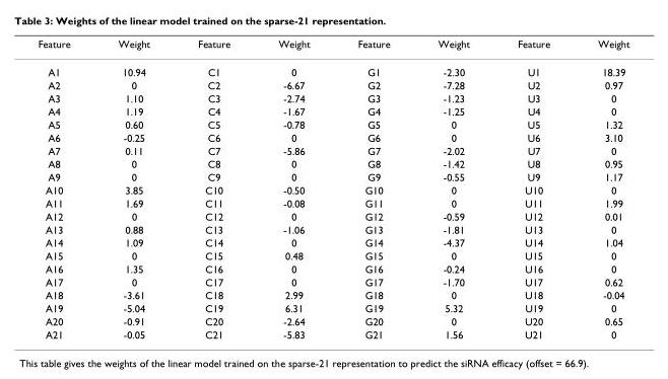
<table><thead><tr><td>Feature</td><td>Weight</td><td>Feature</td><td>Weight</td><td>Feature</td><td>Weight</td><td>Feature</td><td>Weight</td></tr></thead><tbody><tr><td>A1</td><td>10.94</td><td>C1</td><td>0</td><td>G1</td><td>-2.30</td><td>U1</td><td>18.39</td></tr><tr><td>A2</td><td>0</td><td>C2</td><td>-6.67</td><td>G2</td><td>-7.28</td><td>U2</td><td>0.97</td></tr><tr><td>A3</td><td>1.10</td><td>C3</td><td>-2.74</td><td>G3</td><td>-1.23</td><td>U3</td><td>0</td></tr><tr><td>A4</td><td>1.19</td><td>C4</td><td>-1.67</td><td>G4</td><td>-1.25</td><td>U4</td><td>0</td></tr><tr><td>A5</td><td>0.60</td><td>C5</td><td>-0.78</td><td>G5</td><td>0</td><td>U5</td><td>1.32</td></tr><tr><td>A6</td><td>-0.25</td><td>C6</td><td>0</td><td>G6</td><td>0</td><td>U6</td><td>3.10</td></tr><tr><td>A7</td><td>0.11</td><td>C7</td><td>-5.86</td><td>G7</td><td>-2.02</td><td>U7</td><td>0</td></tr><tr><td>A8</td><td>0</td><td>C8</td><td>0</td><td>G8</td><td>-1.42</td><td>U8</td><td>0.95</td></tr><tr><td>A9</td><td>0</td><td>C9</td><td>0</td><td>G9</td><td>-0.55</td><td>U9</td><td>1.17</td></tr><tr><td>A10</td><td>3.85</td><td>C10</td><td>-0.50</td><td>G10</td><td>0</td><td>U10</td><td>0</td></tr><tr><td>A11</td><td>1.69</td><td>C11</td><td>-0.08</td><td>G11</td><td>0</td><td>U11</td><td>1.99</td></tr><tr><td>A12</td><td>0</td><td>C12</td><td>0</td><td>G12</td><td>-0.59</td><td>U12</td><td>0.01</td></tr><tr><td>A13</td><td>0.88</td><td>C13</td><td>-1.06</td><td>G13</td><td>-1.81</td><td>U13</td><td>0</td></tr><tr><td>A14</td><td>1.09</td><td>C14</td><td>0</td><td>G14</td><td>-4.37</td><td>U14</td><td>1.04</td></tr><tr><td>A15</td><td>0</td><td>C15</td><td>0.48</td><td>G15</td><td>0</td><td>U15</td><td>0</td></tr><tr><td>A16</td><td>1.35</td><td>C16</td><td>0</td><td>G16</td><td>-0.24</td><td>U16</td><td>0</td></tr><tr><td>A17</td><td>0</td><td>C17</td><td>0</td><td>G17</td><td>-1.70</td><td>U17</td><td>0.62</td></tr><tr><td>A18</td><td>-3.61</td><td>C18</td><td>2.99</td><td>G18</td><td>0</td><td>U18</td><td>-0.04</td></tr><tr><td>A19</td><td>-5.04</td><td>C19</td><td>6.31</td><td>G19</td><td>5.32</td><td>U19</td><td>0</td></tr><tr><td>A20</td><td>-0.91</td><td>C20</td><td>-2.64</td><td>G20</td><td>0</td><td>U20</td><td>0.65</td></tr><tr><td>A21</td><td>-0.05</td><td>C21</td><td>-5.83</td><td>G21</td><td>1.56</td><td>U21</td><td>0</td></tr></tbody></table>